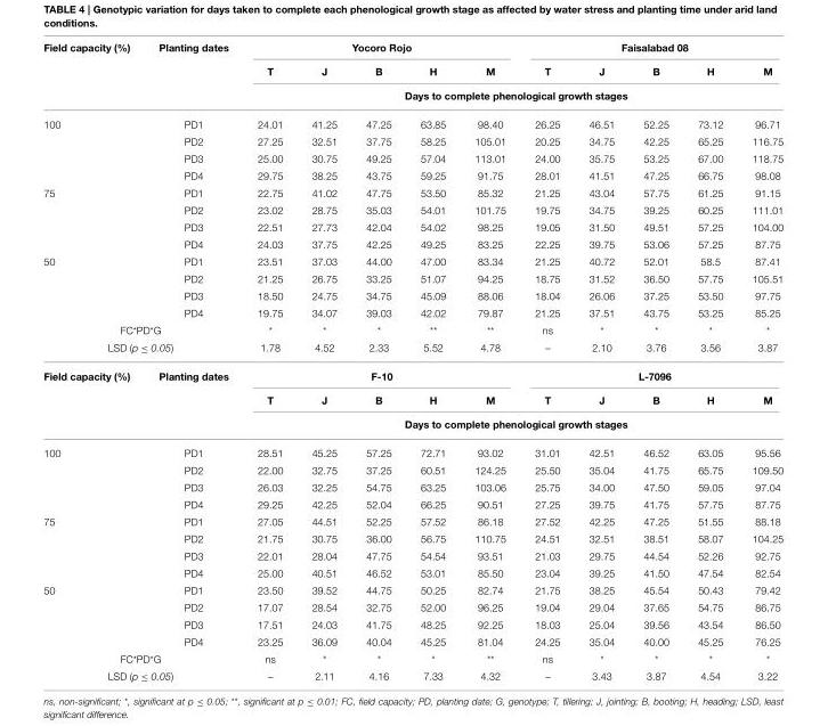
<table><thead><tr><td rowspan="3">Field capacity (%)</td><td rowspan="3">Planting dates</td><td colspan="5">Yocoro Rojo</td><td colspan="5">Faisalabad 08</td></tr><tr><td>T</td><td>J</td><td>B</td><td>H</td><td>M</td><td>T</td><td>J</td><td>B</td><td>H</td><td>M</td></tr><tr><td colspan="10">Days to complete phenological growth stages</td></tr></thead><tbody><tr><td rowspan="4">100</td><td>PD1</td><td>24.01</td><td>41.25</td><td>47.25</td><td>63.85</td><td>98.40</td><td>26.25</td><td>46.51</td><td>52.25</td><td>73.12</td><td>96.71</td></tr><tr><td>PD2</td><td>27.25</td><td>32.51</td><td>37.75</td><td>58.25</td><td>105.01</td><td>20.25</td><td>34.75</td><td>42.25</td><td>65.25</td><td>116.75</td></tr><tr><td>PD3</td><td>25.00</td><td>30.75</td><td>49.25</td><td>57.04</td><td>113.01</td><td>24.00</td><td>35.75</td><td>53.25</td><td>67.00</td><td>118.75</td></tr><tr><td>PD4</td><td>29.75</td><td>38.25</td><td>43.75</td><td>59.25</td><td>91.75</td><td>28.01</td><td>41.51</td><td>47.25</td><td>66.75</td><td>98.08</td></tr><tr><td rowspan="4">75</td><td>PD1</td><td>22.75</td><td>41.02</td><td>47.75</td><td>53.50</td><td>85.32</td><td>21.25</td><td>43.04</td><td>57.75</td><td>61.25</td><td>91.15</td></tr><tr><td>PD2</td><td>23.02</td><td>28.75</td><td>35.03</td><td>54.01</td><td>101.75</td><td>19.75</td><td>34.75</td><td>39.25</td><td>60.25</td><td>111.01</td></tr><tr><td>PD3</td><td>22.51</td><td>27.73</td><td>42.04</td><td>54.02</td><td>98.25</td><td>19.05</td><td>31.50</td><td>49.51</td><td>57.25</td><td>104.00</td></tr><tr><td>PD4</td><td>24.03</td><td>37.75</td><td>42.25</td><td>49.25</td><td>83.25</td><td>22.25</td><td>39.75</td><td>53.06</td><td>57.25</td><td>87.75</td></tr><tr><td rowspan="4">50</td><td>PD1</td><td>23.51</td><td>37.03</td><td>44.00</td><td>47.00</td><td>83.34</td><td>21.25</td><td>40.72</td><td>52.01</td><td>58.5</td><td>87.41</td></tr><tr><td>PD2</td><td>21.25</td><td>26.75</td><td>33.25</td><td>51.07</td><td>94.25</td><td>18.75</td><td>31.52</td><td>36.50</td><td>57.75</td><td>105.51</td></tr><tr><td>PD3</td><td>18.50</td><td>24.75</td><td>34.75</td><td>45.09</td><td>88.06</td><td>18.04</td><td>26.06</td><td>37.25</td><td>53.50</td><td>97.75</td></tr><tr><td>PD4</td><td>19.75</td><td>34.07</td><td>39.03</td><td>42.02</td><td>79.87</td><td>21.25</td><td>37.51</td><td>43.75</td><td>53.25</td><td>85.25</td></tr><tr><td colspan="2">FC*PD*G</td><td>*</td><td>*</td><td>*</td><td>**</td><td>**</td><td>ns</td><td>*</td><td>*</td><td>*</td><td>*</td></tr><tr><td colspan="2">LSD (p ≤ 0.05)</td><td>1.78</td><td>4.52</td><td>2.33</td><td>5.52</td><td>4.78</td><td>–</td><td>2.10</td><td>3.76</td><td>3.56</td><td>3.87</td></tr><tr><td rowspan="3">Field capacity (%)</td><td>Planting dates</td><td colspan="5">F-10</td><td colspan="5">L-7096</td></tr><tr><td></td><td>T</td><td>J</td><td>B</td><td>H</td><td>M</td><td>T</td><td>J</td><td>B</td><td>H</td><td>M</td></tr><tr><td></td><td colspan="10">Days to complete phenological growth stages</td></tr><tr><td rowspan="4">100</td><td>PD1</td><td>28.51</td><td>45.25</td><td>57.25</td><td>72.71</td><td>93.02</td><td>31.01</td><td>42.51</td><td>46.52</td><td>63.05</td><td>95.56</td></tr><tr><td>PD2</td><td>22.00</td><td>32.75</td><td>37.25</td><td>60.51</td><td>124.25</td><td>25.50</td><td>35.04</td><td>41.75</td><td>65.75</td><td>109.50</td></tr><tr><td>PD3</td><td>26.03</td><td>32.25</td><td>54.75</td><td>63.25</td><td>103.06</td><td>25.75</td><td>34.00</td><td>47.50</td><td>59.05</td><td>97.04</td></tr><tr><td>PD4</td><td>29.25</td><td>42.25</td><td>52.04</td><td>66.25</td><td>90.51</td><td>27.25</td><td>39.75</td><td>41.75</td><td>57.75</td><td>87.75</td></tr><tr><td rowspan="4">75</td><td>PD1</td><td>27.05</td><td>44.51</td><td>52.25</td><td>57.52</td><td>86.18</td><td>27.52</td><td>42.25</td><td>47.25</td><td>51.55</td><td>88.18</td></tr><tr><td>PD2</td><td>21.75</td><td>30.75</td><td>36.00</td><td>56.75</td><td>110.75</td><td>24.51</td><td>32.51</td><td>38.51</td><td>58.07</td><td>104.25</td></tr><tr><td>PD3</td><td>22.01</td><td>28.04</td><td>47.75</td><td>54.54</td><td>93.51</td><td>21.03</td><td>29.75</td><td>44.54</td><td>52.26</td><td>92.75</td></tr><tr><td>PD4</td><td>25.00</td><td>40.51</td><td>46.52</td><td>53.01</td><td>85.50</td><td>23.04</td><td>39.25</td><td>41.50</td><td>47.54</td><td>82.54</td></tr><tr><td rowspan="4">50</td><td>PD1</td><td>23.50</td><td>39.52</td><td>44.75</td><td>50.25</td><td>82.74</td><td>21.75</td><td>38.25</td><td>45.54</td><td>50.43</td><td>79.42</td></tr><tr><td>PD2</td><td>17.07</td><td>28.54</td><td>32.75</td><td>52.00</td><td>96.25</td><td>19.04</td><td>29.04</td><td>37.65</td><td>54.75</td><td>86.75</td></tr><tr><td>PD3</td><td>17.51</td><td>24.03</td><td>41.75</td><td>48.25</td><td>92.25</td><td>18.03</td><td>25.04</td><td>39.56</td><td>43.54</td><td>86.50</td></tr><tr><td>PD4</td><td>23.25</td><td>36.09</td><td>40.04</td><td>45.25</td><td>81.04</td><td>24.25</td><td>35.04</td><td>40.00</td><td>45.25</td><td>76.25</td></tr><tr><td colspan="2">FC*PD*G</td><td>ns</td><td>*</td><td>*</td><td>*</td><td>**</td><td>ns</td><td>*</td><td>*</td><td>*</td><td>*</td></tr><tr><td colspan="2">LSD (p ≤ 0.05)</td><td>–</td><td>2.11</td><td>4.16</td><td>7.33</td><td>4.32</td><td>–</td><td>3.43</td><td>3.87</td><td>4.54</td><td>3.22</td></tr></tbody></table>